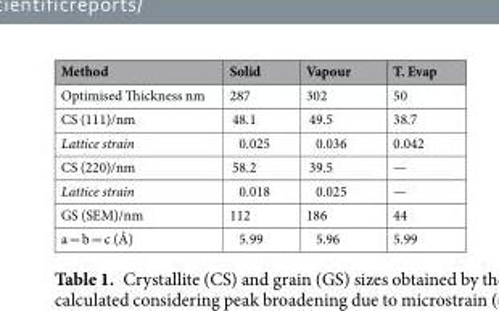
<table><thead><tr><td>Method</td><td>Solid</td><td>Vapour</td><td>T. Evap</td></tr></thead><tbody><tr><td>Optimised Thickness nm</td><td>287</td><td>302</td><td>50</td></tr><tr><td>CS (111)/nm</td><td>48.1</td><td>49.5</td><td>38.7</td></tr><tr><td>Lattice strain</td><td>0.025</td><td>0.036</td><td>0.042</td></tr><tr><td>CS (220)/nm</td><td>58.2</td><td>39.5</td><td>—</td></tr><tr><td>Lattice strain</td><td>0.018</td><td>0.025</td><td>—</td></tr><tr><td>GS (SEM)/nm</td><td>112</td><td>186</td><td>44</td></tr><tr><td>a = b = c (Å)</td><td>5.99</td><td>5.96</td><td>5.99</td></tr></tbody></table>